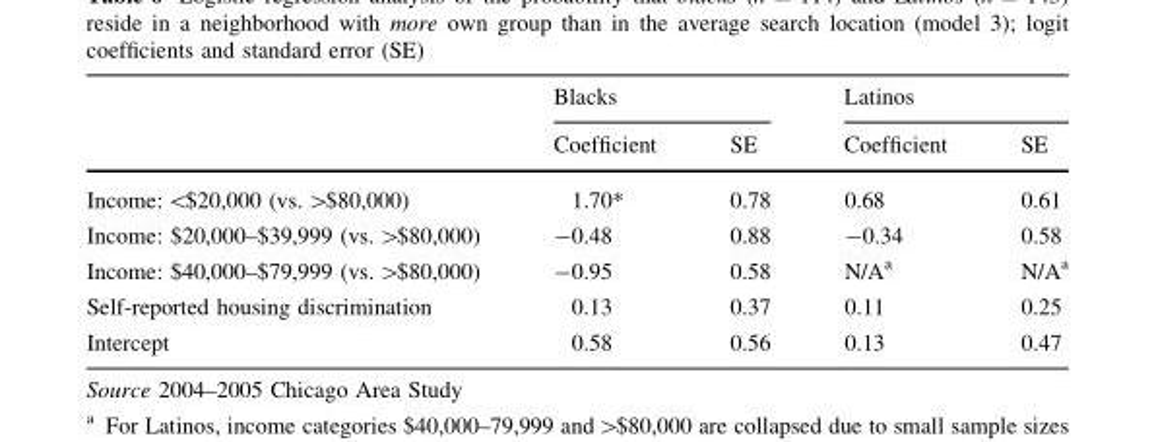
<table><thead><tr><td rowspan="2"></td><td colspan="2">Blacks</td><td colspan="2">Latinos</td></tr><tr><td>Coefficient</td><td>SE</td><td>Coefficient</td><td>SE</td></tr></thead><tbody><tr><td>Income: &lt;$20,000 (vs. &gt;$80,000)</td><td>1.70*</td><td>0.78</td><td>0.68</td><td>0.61</td></tr><tr><td>Income: $20,000–$39,999 (vs. &gt;$80,000)</td><td>-0.48</td><td>0.88</td><td>-0.34</td><td>0.58</td></tr><tr><td>Income: $40,000–$79,999 (vs. &gt;$80,000)</td><td>-0.95</td><td>0.58</td><td>N/A<sup>a</sup></td><td>N/A<sup>a</sup></td></tr><tr><td>Self-reported housing discrimination</td><td>0.13</td><td>0.37</td><td>0.11</td><td>0.25</td></tr><tr><td>Intercept</td><td>0.58</td><td>0.56</td><td>0.13</td><td>0.47</td></tr></tbody></table>